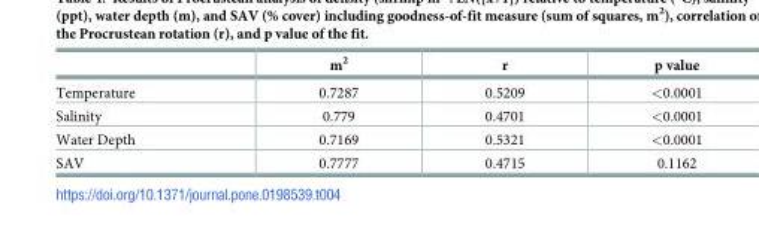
<table><thead><tr><td></td><td>m<sup>2</sup></td><td>r</td><td>p value</td></tr></thead><tbody><tr><td>Temperature</td><td>0.7287</td><td>0.5209</td><td>&lt;0.0001</td></tr><tr><td>Salinity</td><td>0.779</td><td>0.4701</td><td>&lt;0.0001</td></tr><tr><td>Water Depth</td><td>0.7169</td><td>0.5321</td><td>&lt;0.0001</td></tr><tr><td>SAV</td><td>0.7777</td><td>0.4715</td><td>0.1162</td></tr></tbody></table>